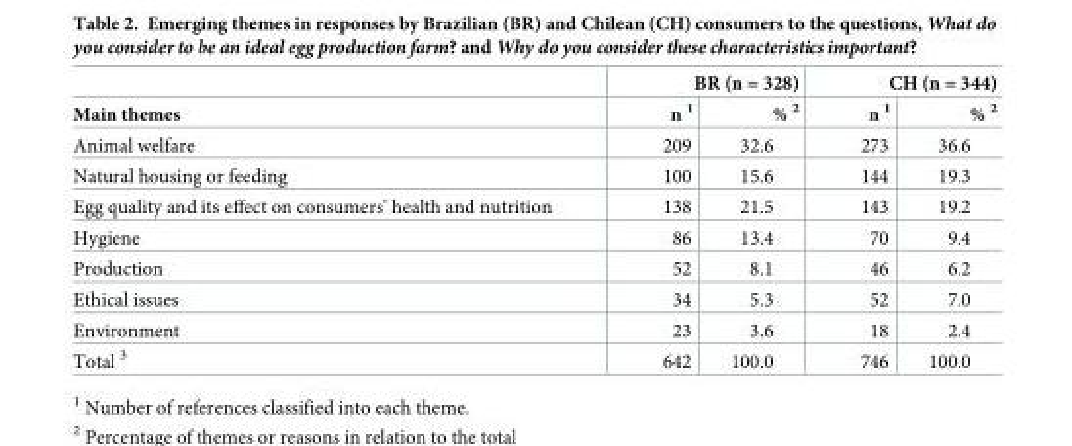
<table><thead><tr><td rowspan="2">Main themes</td><td colspan="2">BR (n = 328)</td><td colspan="2">CH (n = 344)</td></tr><tr><td>n <sup>1</sup></td><td>% <sup>2</sup></td><td>n <sup>1</sup></td><td>% <sup>2</sup></td></tr></thead><tbody><tr><td>Animal welfare</td><td>209</td><td>32.6</td><td>273</td><td>36.6</td></tr><tr><td>Natural housing or feeding</td><td>100</td><td>15.6</td><td>144</td><td>19.3</td></tr><tr><td>Egg quality and its effect on consumers’ health and nutrition</td><td>138</td><td>21.5</td><td>143</td><td>19.2</td></tr><tr><td>Hygiene</td><td>86</td><td>13.4</td><td>70</td><td>9.4</td></tr><tr><td>Production</td><td>52</td><td>8.1</td><td>46</td><td>6.2</td></tr><tr><td>Ethical issues</td><td>34</td><td>5.3</td><td>52</td><td>7.0</td></tr><tr><td>Environment</td><td>23</td><td>3.6</td><td>18</td><td>2.4</td></tr><tr><td>Total <sup>3</sup></td><td>642</td><td>100.0</td><td>746</td><td>100.0</td></tr></tbody></table>